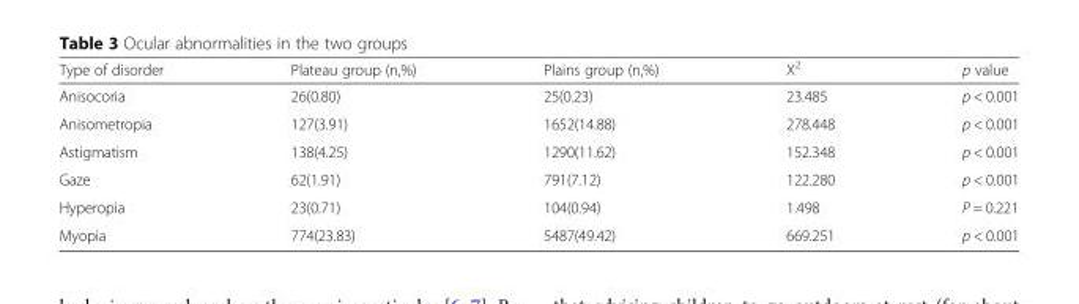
<table><thead><tr><td>Type of disorder</td><td>Plateau group (n,%)</td><td>Plains group (n,%)</td><td>Χ<sup>2</sup></td><td>p value</td></tr></thead><tbody><tr><td>Anisocoria</td><td>26(0.80)</td><td>25(0.23)</td><td>23.485</td><td>p &lt; 0.001</td></tr><tr><td>Anisometropia</td><td>127(3.91)</td><td>1652(14.88)</td><td>278.448</td><td>p &lt; 0.001</td></tr><tr><td>Astigmatism</td><td>138(4.25)</td><td>1290(11.62)</td><td>152.348</td><td>p &lt; 0.001</td></tr><tr><td>Gaze</td><td>62(1.91)</td><td>791(7.12)</td><td>122.280</td><td>p &lt; 0.001</td></tr><tr><td>Hyperopia</td><td>23(0.71)</td><td>104(0.94)</td><td>1.498</td><td>P = 0.221</td></tr><tr><td>Myopia</td><td>774(23.83)</td><td>5487(49.42)</td><td>669.251</td><td>p &lt; 0.001</td></tr></tbody></table>